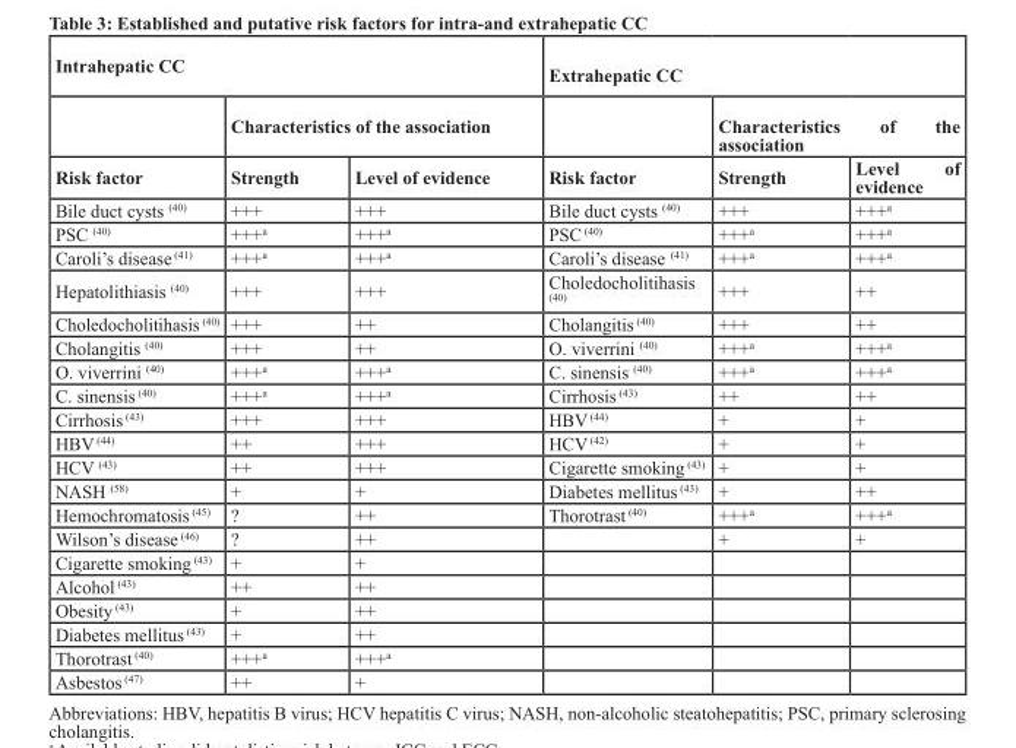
<table><thead><tr><td colspan="3">Intrahepatic CC</td><td colspan="3">Extrahepatic CC</td></tr><tr><td rowspan="2">Risk factor</td><td colspan="2">Characteristics of the association</td><td rowspan="2">Risk factor</td><td colspan="2">Characteristics of the association</td></tr><tr><td>Strength</td><td>Level of evidence</td><td>Strength</td><td>Level of evidence</td></tr></thead><tbody><tr><td>Bile duct cysts <sup>(40)</sup></td><td>+++</td><td>+++</td><td>Bile duct cysts <sup>(40)</sup></td><td>+++</td><td>+++<sup>a</sup></td></tr><tr><td>PSC <sup>(40)</sup></td><td>+++<sup>a</sup></td><td>+++<sup>a</sup></td><td>PSC <sup>(40)</sup></td><td>+++<sup>a</sup></td><td>+++<sup>a</sup></td></tr><tr><td>Caroli’s disease <sup>(41)</sup></td><td>+++<sup>a</sup></td><td>+++<sup>a</sup></td><td>Caroli’s disease <sup>(41)</sup></td><td>+++<sup>a</sup></td><td>+++<sup>a</sup></td></tr><tr><td>Hepatolithiasis <sup>(40)</sup></td><td>+++</td><td>+++</td><td>Choledocholitihasis <sup>(40)</sup></td><td>+++</td><td>++</td></tr><tr><td>Choledocholitihasis <sup>(40)</sup></td><td>+++</td><td>++</td><td>Cholangitis <sup>(40)</sup></td><td>+++</td><td>++</td></tr><tr><td>Cholangitis <sup>(40)</sup></td><td>+++</td><td>++</td><td>O. viverrini <sup>(40)</sup></td><td>+++<sup>a</sup></td><td>+++<sup>a</sup></td></tr><tr><td>O. viverrini <sup>(40)</sup></td><td>+++<sup>a</sup></td><td>+++<sup>a</sup></td><td>C. sinensis <sup>(40)</sup></td><td>+++<sup>a</sup></td><td>+++<sup>a</sup></td></tr><tr><td>C. sinensis <sup>(40)</sup></td><td>+++<sup>a</sup></td><td>+++<sup>a</sup></td><td>Cirrhosis <sup>(43)</sup></td><td>++</td><td>++</td></tr><tr><td>Cirrhosis <sup>(43)</sup></td><td>+++</td><td>+++</td><td>HBV <sup>(44)</sup></td><td>+</td><td>+</td></tr><tr><td>HBV <sup>(44)</sup></td><td>++</td><td>+++</td><td>HCV <sup>(42)</sup></td><td>+</td><td>+</td></tr><tr><td>HCV <sup>(43)</sup></td><td>++</td><td>+++</td><td>Cigarette smoking <sup>(43)</sup></td><td>+</td><td>+</td></tr><tr><td>NASH <sup>(58)</sup></td><td>+</td><td>+</td><td>Diabetes mellitus <sup>(43)</sup></td><td>+</td><td>++</td></tr><tr><td>Hemochromatosis <sup>(45)</sup></td><td>?</td><td>++</td><td>Thorotrast <sup>(40)</sup></td><td>+++<sup>a</sup></td><td>+++<sup>a</sup></td></tr><tr><td>Wilson’s disease <sup>(46)</sup></td><td>?</td><td>++</td><td></td><td>+</td><td>+</td></tr><tr><td>Cigarette smoking <sup>(43)</sup></td><td>+</td><td>+</td><td></td><td></td><td></td></tr><tr><td>Alcohol <sup>(43)</sup></td><td>++</td><td>++</td><td></td><td></td><td></td></tr><tr><td>Obesity <sup>(43)</sup></td><td>+</td><td>++</td><td></td><td></td><td></td></tr><tr><td>Diabetes mellitus <sup>(43)</sup></td><td>+</td><td>++</td><td></td><td></td><td></td></tr><tr><td>Thorotrast <sup>(40)</sup></td><td>+++<sup>a</sup></td><td>+++<sup>a</sup></td><td></td><td></td><td></td></tr><tr><td>Asbestos <sup>(47)</sup></td><td>++</td><td>+</td><td></td><td></td><td></td></tr></tbody></table>